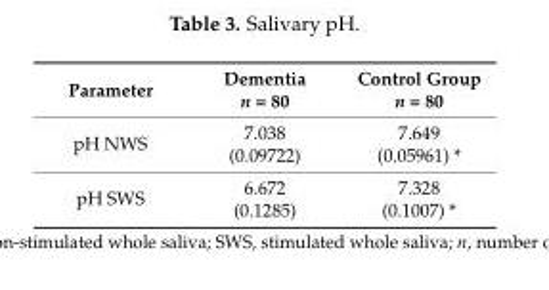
<table><thead><tr><td>Parameter</td><td>Dementia n = 80</td><td>Control Group n = 80</td></tr></thead><tbody><tr><td rowspan="2">pH NWS</td><td>7.038</td><td>7.649</td></tr><tr><td>(0.09722)</td><td>(0.05961) *</td></tr><tr><td rowspan="2">pH SWS</td><td>6.672</td><td>7.328</td></tr><tr><td>(0.1285)</td><td>(0.1007) *</td></tr></tbody></table>